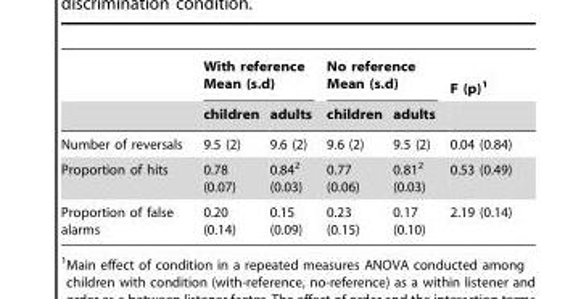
<table><thead><tr><td rowspan="2"></td><td colspan="2">With reference Mean (s.d)</td><td colspan="2">No reference Mean (s.d)</td><td rowspan="2">F (p)<sup>1</sup></td></tr><tr><td>children</td><td>adults</td><td>children</td><td>adults</td></tr></thead><tbody><tr><td>Number of reversals</td><td>9.5 (2)</td><td>9.6 (2)</td><td>9.6 (2)</td><td>9.5 (2)</td><td>0.04 (0.84)</td></tr><tr><td>Proportion of hits</td><td>0.78 (0.07)</td><td>0.84<sup>2</sup> (0.03)</td><td>0.77 (0.06)</td><td>0.81<sup>2</sup> (0.03)</td><td>0.53 (0.49)</td></tr><tr><td>Proportion of false alarms</td><td>0.20 (0.14)</td><td>0.15 (0.09)</td><td>0.23 (0.15)</td><td>0.17 (0.10)</td><td>2.19 (0.14)</td></tr></tbody></table>